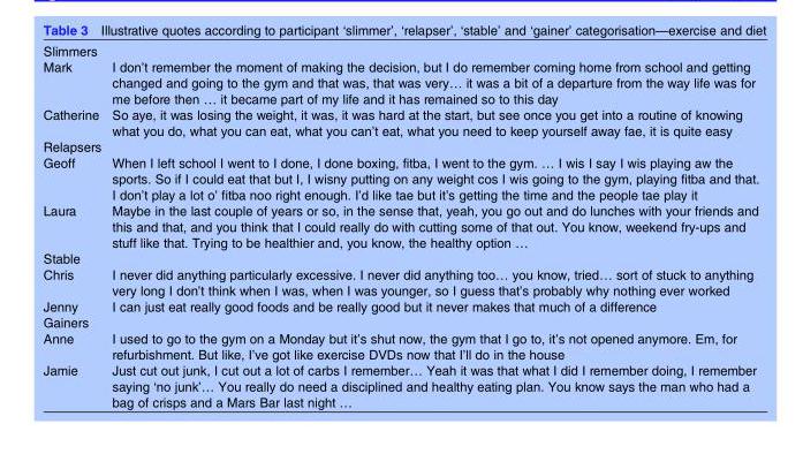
<table><tbody><tr><td colspan="2">Slimmers</td></tr><tr><td>Mark</td><td>I don’t remember the moment of making the decision, but I do remember coming home from school and getting changed and going to the gym and that was, that was very… it was a bit of a departure from the way life was for me before then … it became part of my life and it has remained so to this day</td></tr><tr><td>Catherine</td><td>So aye, it was losing the weight, it was, it was hard at the start, but see once you get into a routine of knowing what you do, what you can eat, what you can’t eat, what you need to keep yourself away fae, it is quite easy</td></tr><tr><td colspan="2">Relapsers</td></tr><tr><td>Geoff</td><td>When I left school I went to I done, I done boxing, fitba, I went to the gym. … I wis I say I wis playing aw the sports. So if I could eat that but I, I wisny putting on any weight cos I wis going to the gym, playing fitba and that. I don’t play a lot o’ fitba noo right enough. I’d like tae but it’s getting the time and the people tae play it</td></tr><tr><td>Laura</td><td>Maybe in the last couple of years or so, in the sense that, yeah, you go out and do lunches with your friends and this and that, and you think that I could really do with cutting some of that out. You know, weekend fry-ups and stuff like that. Trying to be healthier and, you know, the healthy option …</td></tr><tr><td colspan="2">Stable</td></tr><tr><td>Chris</td><td>I never did anything particularly excessive. I never did anything too… you know, tried… sort of stuck to anything very long I don’t think when I was, when I was younger, so I guess that’s probably why nothing ever worked</td></tr><tr><td>Jenny</td><td>I can just eat really good foods and be really good but it never makes that much of a difference</td></tr><tr><td colspan="2">Gainers</td></tr><tr><td>Anne</td><td>I used to go to the gym on a Monday but it’s shut now, the gym that I go to, it’s not opened anymore. Em, for refurbishment. But like, I’ve got like exercise DVDs now that I’ll do in the house</td></tr><tr><td>Jamie</td><td>Just cut out junk, I cut out a lot of carbs I remember… Yeah it was that what I did I remember doing, I remember saying ‘no junk’… You really do need a disciplined and healthy eating plan. You know says the man who had a bag of crisps and a Mars Bar last night …</td></tr></tbody></table>